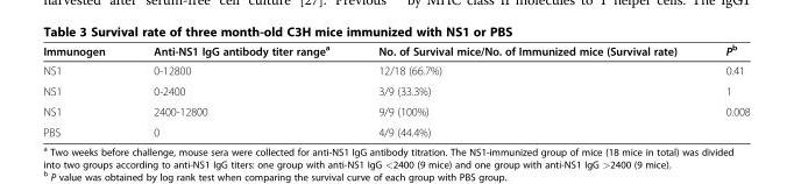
<table><thead><tr><td>Immunogen</td><td>Anti-NS1 IgG antibody titer range<sup>a</sup></td><td>No. of Survival mice/No. of Immunized mice (Survival rate)</td><td>P<sup>b</sup></td></tr></thead><tbody><tr><td>NS1</td><td>0-12800</td><td>12/18 (66.7%)</td><td>0.41</td></tr><tr><td>NS1</td><td>0-2400</td><td>3/9 (33.3%)</td><td>1</td></tr><tr><td>NS1</td><td>2400-12800</td><td>9/9 (100%)</td><td>0.008</td></tr><tr><td>PBS</td><td>0</td><td>4/9 (44.4%)</td><td></td></tr></tbody></table>